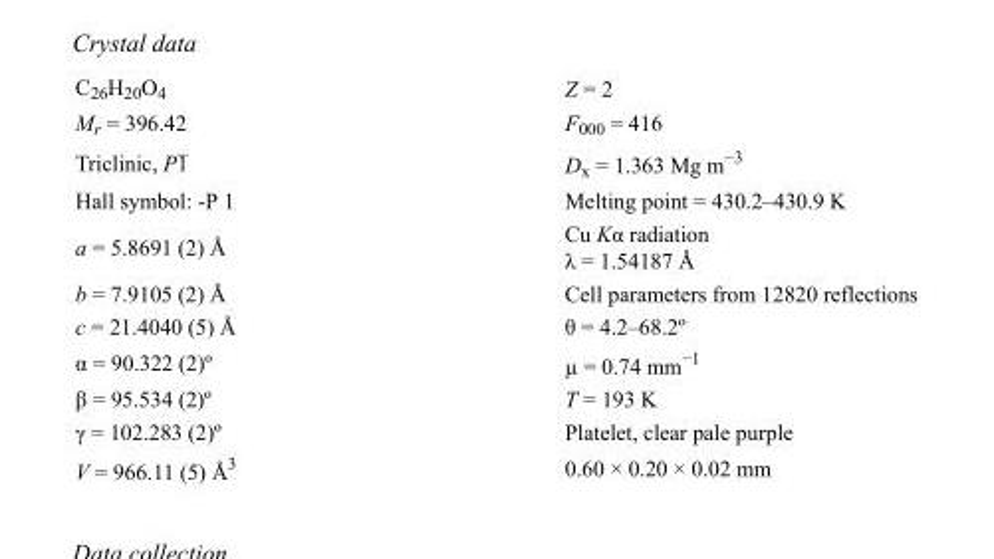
<table><tbody><tr><td>C<sub>26</sub>H<sub>20</sub>O<sub>4</sub></td><td>Z = 2</td></tr><tr><td>M<sub>r</sub> = 396.42</td><td>F<sub>000</sub> = 416</td></tr><tr><td>Triclinic, P1</td><td>D<sub>x</sub> = 1.363 Mg m<sup>−3</sup></td></tr><tr><td>Hall symbol: -P 1</td><td>Melting point = 430.2–430.9 K</td></tr><tr><td>a = 5.8691 (2) Å</td><td>Cu Kα radiation λ = 1.54187 Å</td></tr><tr><td>b = 7.9105 (2) Å</td><td>Cell parameters from 12820 reflections</td></tr><tr><td>c = 21.4040 (5) Å</td><td>θ = 4.2–68.2º</td></tr><tr><td>α = 90.322 (2)º</td><td>µ = 0.74 mm<sup>−1</sup></td></tr><tr><td>β = 95.534 (2)º</td><td>T = 193 K</td></tr><tr><td>γ = 102.283 (2)º</td><td>Platelet, clear pale purple</td></tr><tr><td>V = 966.11 (5) Å<sup>3</sup></td><td>0.60 × 0.20 × 0.02 mm</td></tr></tbody></table>